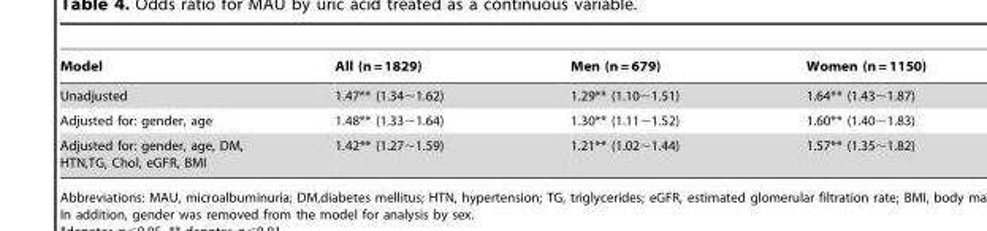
<table><thead><tr><td>Model</td><td>All (n = 1829)</td><td>Men (n = 679)</td><td>Women (n = 1150)</td></tr></thead><tbody><tr><td>Unadjusted</td><td>1.47** (1.34∼1.62)</td><td>1.29** (1.10∼1.51)</td><td>1.64** (1.43∼1.87)</td></tr><tr><td>Adjusted for: gender, age</td><td>1.48** (1.33∼1.64)</td><td>1.30** (1.11∼1.52)</td><td>1.60** (1.40∼1.83)</td></tr><tr><td>Adjusted for: gender, age, DM, HTN,TG, Chol, eGFR, BMI</td><td>1.42** (1.27∼1.59)</td><td>1.21** (1.02∼1.44)</td><td>1.57** (1.35∼1.82)</td></tr></tbody></table>